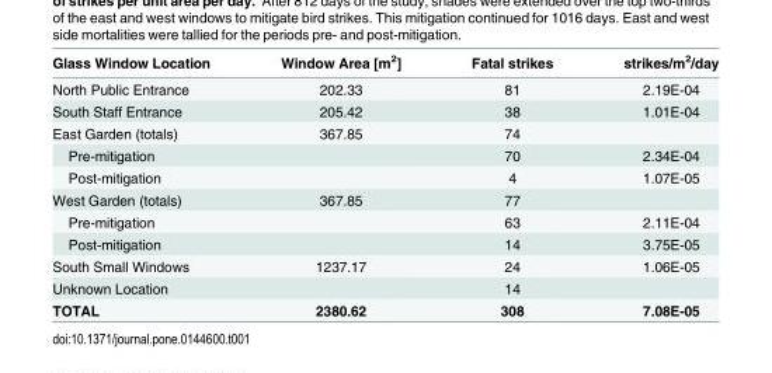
<table><thead><tr><td>Glass Window Location</td><td>Window Area [m<sup>2</sup>]</td><td>Fatal strikes</td><td>strikes/m<sup>2</sup>/day</td></tr></thead><tbody><tr><td>North Public Entrance</td><td>202.33</td><td>81</td><td>2.19E-04</td></tr><tr><td>South Staff Entrance</td><td>205.42</td><td>38</td><td>1.01E-04</td></tr><tr><td>East Garden (totals)</td><td>367.85</td><td>74</td><td></td></tr><tr><td>Pre-mitigation</td><td></td><td>70</td><td>2.34E-04</td></tr><tr><td>Post-mitigation</td><td></td><td>4</td><td>1.07E-05</td></tr><tr><td>West Garden (totals)</td><td>367.85</td><td>77</td><td></td></tr><tr><td>Pre-mitigation</td><td></td><td>63</td><td>2.11E-04</td></tr><tr><td>Post-mitigation</td><td></td><td>14</td><td>3.75E-05</td></tr><tr><td>South Small Windows</td><td>1237.17</td><td>24</td><td>1.06E-05</td></tr><tr><td>Unknown Location</td><td></td><td>14</td><td></td></tr><tr><td>TOTAL</td><td>2380.62</td><td>308</td><td>7.08E-05</td></tr></tbody></table>